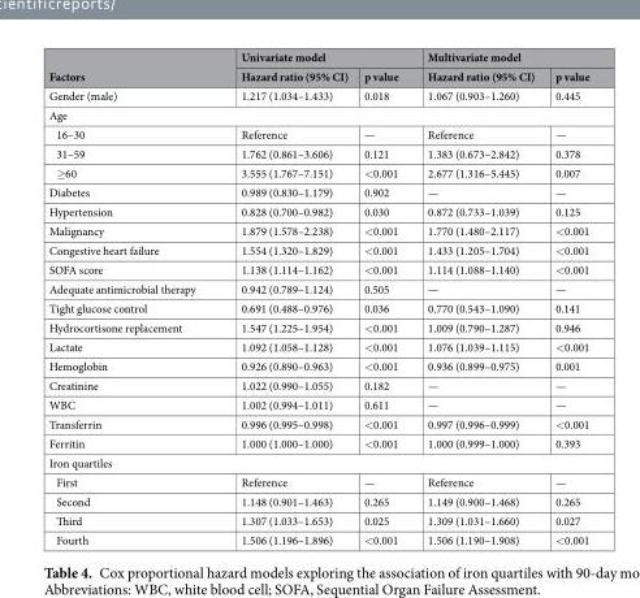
<table><thead><tr><td rowspan="2">Factors</td><td colspan="2">Univariate model</td><td colspan="2">Multivariate model</td></tr><tr><td>Hazard ratio (95% CI)</td><td>p value</td><td>Hazard ratio (95% CI)</td><td>p value</td></tr></thead><tbody><tr><td>Gender (male)</td><td>1.217 (1.034–1.433)</td><td>0.018</td><td>1.067 (0.903–1.260)</td><td>0.445</td></tr><tr><td colspan="5">Age</td></tr><tr><td>16–30</td><td>Reference</td><td>—</td><td>Reference</td><td>—</td></tr><tr><td>31–59</td><td>1.762 (0.861–3.606)</td><td>0.121</td><td>1.383 (0.673–2.842)</td><td>0.378</td></tr><tr><td>≥60</td><td>3.555 (1.767–7.151)</td><td>&lt;0.001</td><td>2.677 (1.316–5.445)</td><td>0.007</td></tr><tr><td>Diabetes</td><td>0.989 (0.830–1.179)</td><td>0.902</td><td>—</td><td>—</td></tr><tr><td>Hypertension</td><td>0.828 (0.700–0.982)</td><td>0.030</td><td>0.872 (0.733–1.039)</td><td>0.125</td></tr><tr><td>Malignancy</td><td>1.879 (1.578–2.238)</td><td>&lt;0.001</td><td>1.770 (1.480–2.117)</td><td>&lt;0.001</td></tr><tr><td>Congestive heart failure</td><td>1.554 (1.320–1.829)</td><td>&lt;0.001</td><td>1.433 (1.205–1.704)</td><td>&lt;0.001</td></tr><tr><td>SOFA score</td><td>1.138 (1.114–1.162)</td><td>&lt;0.001</td><td>1.114 (1.088–1.140)</td><td>&lt;0.001</td></tr><tr><td>Adequate antimicrobial therapy</td><td>0.942 (0.789–1.124)</td><td>0.505</td><td>—</td><td>—</td></tr><tr><td>Tight glucose control</td><td>0.691 (0.488–0.976)</td><td>0.036</td><td>0.770 (0.543–1.090)</td><td>0.141</td></tr><tr><td>Hydrocortisone replacement</td><td>1.547 (1.225–1.954)</td><td>&lt;0.001</td><td>1.009 (0.790–1.287)</td><td>0.946</td></tr><tr><td>Lactate</td><td>1.092 (1.058–1.128)</td><td>&lt;0.001</td><td>1.076 (1.039–1.115)</td><td>&lt;0.001</td></tr><tr><td>Hemoglobin</td><td>0.926 (0.890–0.963)</td><td>&lt;0.001</td><td>0.936 (0.899–0.975)</td><td>0.001</td></tr><tr><td>Creatinine</td><td>1.022 (0.990–1.055)</td><td>0.182</td><td>—</td><td>—</td></tr><tr><td>WBC</td><td>1.002 (0.994–1.011)</td><td>0.611</td><td>—</td><td>—</td></tr><tr><td>Transferrin</td><td>0.996 (0.995–0.998)</td><td>&lt;0.001</td><td>0.997 (0.996–0.999)</td><td>&lt;0.001</td></tr><tr><td>Ferritin</td><td>1.000 (1.000–1.000)</td><td>&lt;0.001</td><td>1.000 (0.999–1.000)</td><td>0.393</td></tr><tr><td colspan="5">Iron quartiles</td></tr><tr><td>First</td><td>Reference</td><td>—</td><td>Reference</td><td>—</td></tr><tr><td>Second</td><td>1.148 (0.901–1.463)</td><td>0.265</td><td>1.149 (0.900–1.468)</td><td>0.265</td></tr><tr><td>Third</td><td>1.307 (1.033–1.653)</td><td>0.025</td><td>1.309 (1.031–1.660)</td><td>0.027</td></tr><tr><td>Fourth</td><td>1.506 (1.196–1.896)</td><td>&lt;0.001</td><td>1.506 (1.190–1.908)</td><td>&lt;0.001</td></tr></tbody></table>